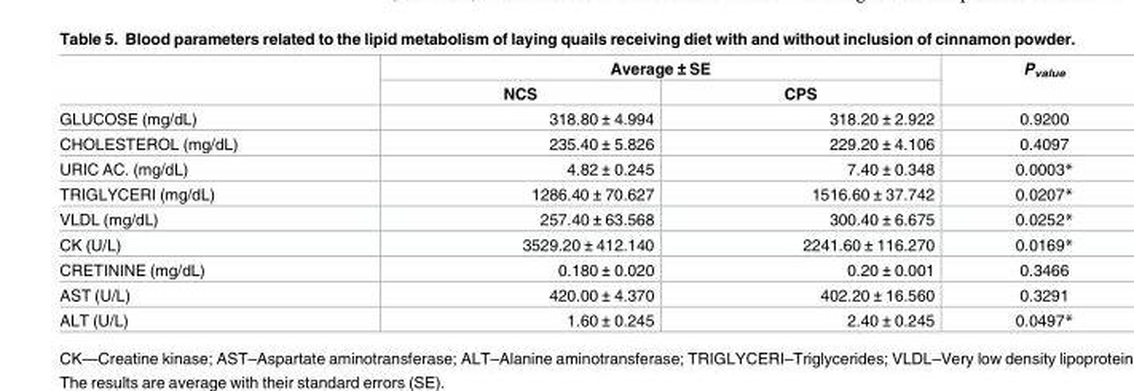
<table><thead><tr><td rowspan="2"></td><td colspan="2">Average ± SE</td><td rowspan="2">P<sub>value</sub></td></tr><tr><td>NCS</td><td>CPS</td></tr></thead><tbody><tr><td>GLUCOSE (mg/dL)</td><td>318.80 ± 4.994</td><td>318.20 ± 2.922</td><td>0.9200</td></tr><tr><td>CHOLESTEROL (mg/dL)</td><td>235.40 ± 5.826</td><td>229.20 ± 4.106</td><td>0.4097</td></tr><tr><td>URIC AC. (mg/dL)</td><td>4.82 ± 0.245</td><td>7.40 ± 0.348</td><td>0.0003*</td></tr><tr><td>TRIGLYCERI (mg/dL)</td><td>1286.40 ± 70.627</td><td>1516.60 ± 37.742</td><td>0.0207*</td></tr><tr><td>VLDL (mg/dL)</td><td>257.40 ± 63.568</td><td>300.40 ± 6.675</td><td>0.0252*</td></tr><tr><td>CK (U/L)</td><td>3529.20 ± 412.140</td><td>2241.60 ± 116.270</td><td>0.0169*</td></tr><tr><td>CRETININE (mg/dL)</td><td>0.180 ± 0.020</td><td>0.20 ± 0.001</td><td>0.3466</td></tr><tr><td>AST (U/L)</td><td>420.00 ± 4.370</td><td>402.20 ± 16.560</td><td>0.3291</td></tr><tr><td>ALT (U/L)</td><td>1.60 ± 0.245</td><td>2.40 ± 0.245</td><td>0.0497*</td></tr></tbody></table>